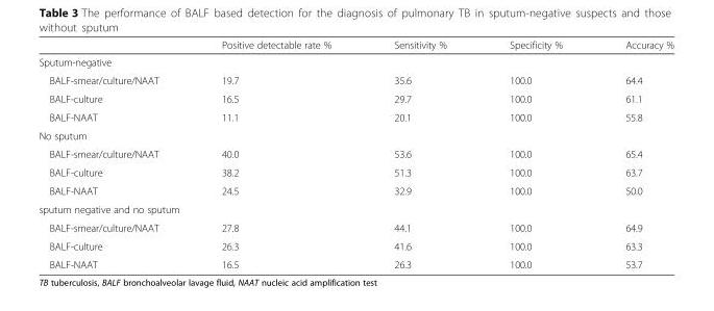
<table><thead><tr><td></td><td>Positive detectable rate %</td><td>Sensitivity %</td><td>Specificity %</td><td>Accuracy %</td></tr></thead><tbody><tr><td colspan="5">Sputum-negative</td></tr><tr><td>BALF-smear/culture/NAAT</td><td>19.7</td><td>35.6</td><td>100.0</td><td>64.4</td></tr><tr><td>BALF-culture</td><td>16.5</td><td>29.7</td><td>100.0</td><td>61.1</td></tr><tr><td>BALF-NAAT</td><td>11.1</td><td>20.1</td><td>100.0</td><td>55.8</td></tr><tr><td colspan="5">No sputum</td></tr><tr><td>BALF-smear/culture/NAAT</td><td>40.0</td><td>53.6</td><td>100.0</td><td>65.4</td></tr><tr><td>BALF-culture</td><td>38.2</td><td>51.3</td><td>100.0</td><td>63.7</td></tr><tr><td>BALF-NAAT</td><td>24.5</td><td>32.9</td><td>100.0</td><td>50.0</td></tr><tr><td colspan="5">sputum negative and no sputum</td></tr><tr><td>BALF-smear/culture/NAAT</td><td>27.8</td><td>44.1</td><td>100.0</td><td>64.9</td></tr><tr><td>BALF-culture</td><td>26.3</td><td>41.6</td><td>100.0</td><td>63.3</td></tr><tr><td>BALF-NAAT</td><td>16.5</td><td>26.3</td><td>100.0</td><td>53.7</td></tr></tbody></table>